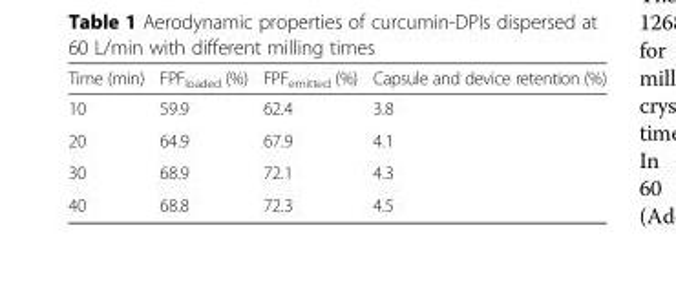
<table><thead><tr><td>Time (min)</td><td>FPF<sub>loaded</sub> (%)</td><td>FPF<sub>emitted</sub> (%)</td><td>Capsule and device retention (%)</td></tr></thead><tbody><tr><td>10</td><td>59.9</td><td>62.4</td><td>3.8</td></tr><tr><td>20</td><td>64.9</td><td>67.9</td><td>4.1</td></tr><tr><td>30</td><td>68.9</td><td>72.1</td><td>4.3</td></tr><tr><td>40</td><td>68.8</td><td>72.3</td><td>4.5</td></tr></tbody></table>